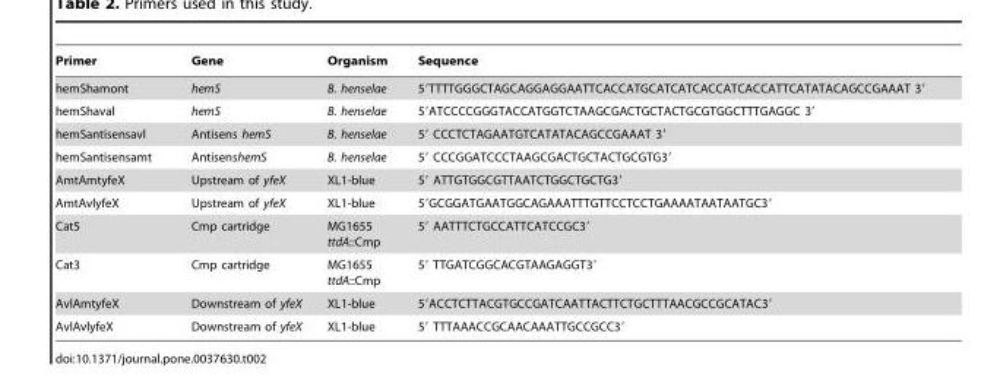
<table><thead><tr><td>Primer</td><td>Gene</td><td>Organism</td><td>Sequence</td></tr></thead><tbody><tr><td>hemShamont</td><td>hemS</td><td>B. henselae</td><td>5′TTTTGGGCTAGCAGGAGGAATTCACCATGCATCATCACCATCACCATTCATATACAGCCGAAAT 3′</td></tr><tr><td>hemShaval</td><td>hemS</td><td>B. henselae</td><td>5′ATCCCCGGGTACCATGGTCTAAGCGACTGCTACTGCGTGGCTTTGAGGC 3′</td></tr><tr><td>hemSantisensavl</td><td>Antisens hemS</td><td>B. henselae</td><td>5′ CCCTCTAGAATGTCATATACAGCCGAAAT 3′</td></tr><tr><td>hemSantisensamt</td><td>AntisenshemS</td><td>B. henselae</td><td>5′ CCCGGATCCCTAAGCGACTGCTACTGCGTG3′</td></tr><tr><td>AmtAmtyfeX</td><td>Upstream of yfeX</td><td>XL1-blue</td><td>5′ ATTGTGGCGTTAATCTGGCTGCTG3′</td></tr><tr><td>AmtAvlyfeX</td><td>Upstream of yfeX</td><td>XL1-blue</td><td>5′GCGGATGAATGGCAGAAATTTGTTCCTCCTGAAAATAATAATGC3′</td></tr><tr><td>Cat5</td><td>Cmp cartridge</td><td>MG1655 ttdA::Cmp</td><td>5′ AATTTCTGCCATTCATCCGC3′</td></tr><tr><td>Cat3</td><td>Cmp cartridge</td><td>MG1655 ttdA::Cmp</td><td>5′ TTGATCGGCACGTAAGAGGT3′</td></tr><tr><td>AvlAmtyfeX</td><td>Downstream of yfeX</td><td>XL1-blue</td><td>5′ACCTCTTACGTGCCGATCAATTACTTCTGCTTTAACGCCGCATAC3′</td></tr><tr><td>AvlAvlyfeX</td><td>Downstream of yfeX</td><td>XL1-blue</td><td>5′ TTTAAACCGCAACAAATTGCCGCC3′</td></tr></tbody></table>